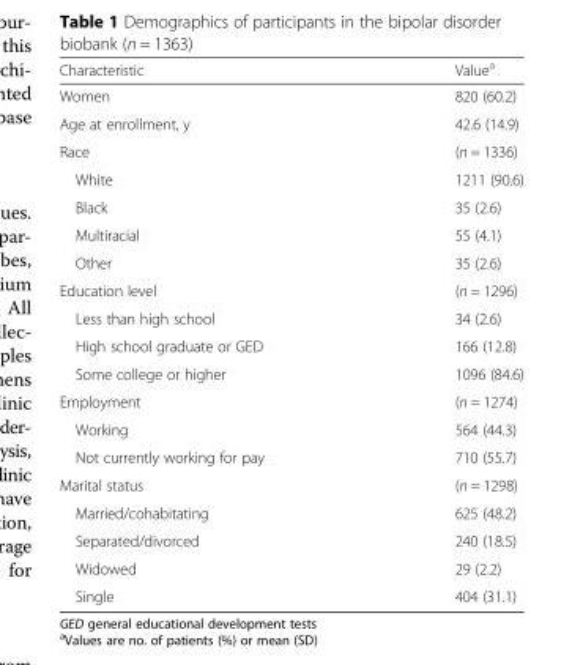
<table><thead><tr><td>Characteristic</td><td>Value<sup>a</sup></td></tr></thead><tbody><tr><td>Women</td><td>820 (60.2)</td></tr><tr><td>Age at enrollment, y</td><td>42.6 (14.9)</td></tr><tr><td>Race</td><td>(n = 1336)</td></tr><tr><td>White</td><td>1211 (90.6)</td></tr><tr><td>Black</td><td>35 (2.6)</td></tr><tr><td>Multiracial</td><td>55 (4.1)</td></tr><tr><td>Other</td><td>35 (2.6)</td></tr><tr><td>Education level</td><td>(n = 1296)</td></tr><tr><td>Less than high school</td><td>34 (2.6)</td></tr><tr><td>High school graduate or GED</td><td>166 (12.8)</td></tr><tr><td>Some college or higher</td><td>1096 (84.6)</td></tr><tr><td>Employment</td><td>(n = 1274)</td></tr><tr><td>Working</td><td>564 (44.3)</td></tr><tr><td>Not currently working for pay</td><td>710 (55.7)</td></tr><tr><td>Marital status</td><td>(n = 1298)</td></tr><tr><td>Married/cohabitating</td><td>625 (48.2)</td></tr><tr><td>Separated/divorced</td><td>240 (18.5)</td></tr><tr><td>Widowed</td><td>29 (2.2)</td></tr><tr><td>Single</td><td>404 (31.1)</td></tr></tbody></table>